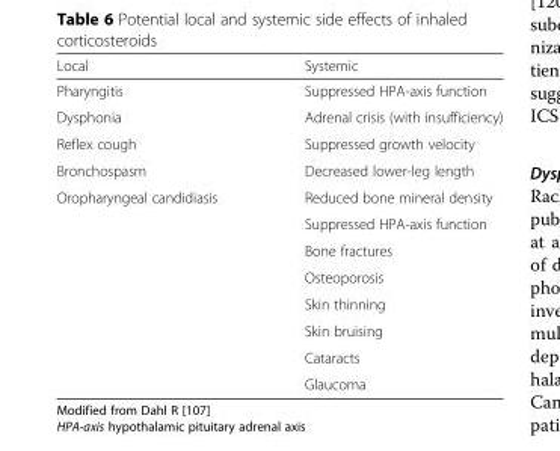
<table><thead><tr><td>Local</td><td>Systemic</td></tr></thead><tbody><tr><td>Pharyngitis</td><td>Suppressed HPA-axis function</td></tr><tr><td>Dysphonia</td><td>Adrenal crisis (with insufficiency)</td></tr><tr><td>Reflex cough</td><td>Suppressed growth velocity</td></tr><tr><td>Bronchospasm</td><td>Decreased lower-leg length</td></tr><tr><td rowspan="8">Oropharyngeal candidiasis</td><td>Reduced bone mineral density</td></tr><tr><td>Suppressed HPA-axis function</td></tr><tr><td>Bone fractures</td></tr><tr><td>Osteoporosis</td></tr><tr><td>Skin thinning</td></tr><tr><td>Skin bruising</td></tr><tr><td>Cataracts</td></tr><tr><td>Glaucoma</td></tr></tbody></table>